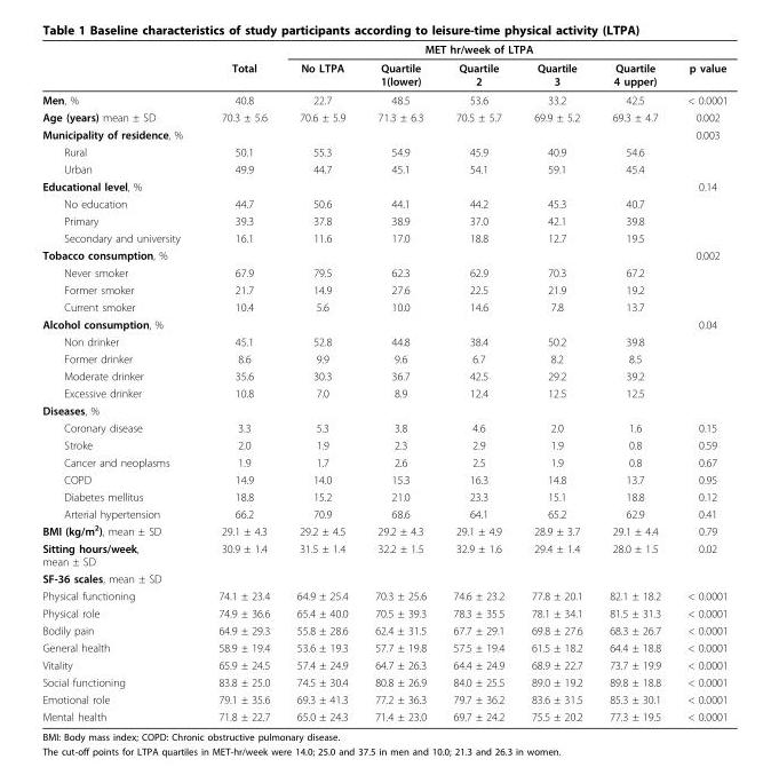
<table><thead><tr><td rowspan="2"></td><td rowspan="2">Total</td><td colspan="5">MET hr/week of LTPA</td><td rowspan="2">p value</td></tr><tr><td>No LTPA</td><td>Quartile 1(lower)</td><td>Quartile 2</td><td>Quartile 3</td><td>Quartile 4 upper)</td></tr></thead><tbody><tr><td>Men, %</td><td>40.8</td><td>22.7</td><td>48.5</td><td>53.6</td><td>33.2</td><td>42.5</td><td>&lt; 0.0001</td></tr><tr><td>Age (years) mean ± SD</td><td>70.3 ± 5.6</td><td>70.6 ± 5.9</td><td>71.3 ± 6.3</td><td>70.5 ± 5.7</td><td>69.9 ± 5.2</td><td>69.3 ± 4.7</td><td>0.002</td></tr><tr><td>Municipality of residence, %</td><td></td><td></td><td></td><td></td><td></td><td></td><td>0.003</td></tr><tr><td>Rural</td><td>50.1</td><td>55.3</td><td>54.9</td><td>45.9</td><td>40.9</td><td>54.6</td><td></td></tr><tr><td>Urban</td><td>49.9</td><td>44.7</td><td>45.1</td><td>54.1</td><td>59.1</td><td>45.4</td><td></td></tr><tr><td>Educational level, %</td><td></td><td></td><td></td><td></td><td></td><td></td><td>0.14</td></tr><tr><td>No education</td><td>44.7</td><td>50.6</td><td>44.1</td><td>44.2</td><td>45.3</td><td>40.7</td><td></td></tr><tr><td>Primary</td><td>39.3</td><td>37.8</td><td>38.9</td><td>37.0</td><td>42.1</td><td>39.8</td><td></td></tr><tr><td>Secondary and university</td><td>16.1</td><td>11.6</td><td>17.0</td><td>18.8</td><td>12.7</td><td>19.5</td><td></td></tr><tr><td>Tobacco consumption, %</td><td></td><td></td><td></td><td></td><td></td><td></td><td>0.002</td></tr><tr><td>Never smoker</td><td>67.9</td><td>79.5</td><td>62.3</td><td>62.9</td><td>70.3</td><td>67.2</td><td></td></tr><tr><td>Former smoker</td><td>21.7</td><td>14.9</td><td>27.6</td><td>22.5</td><td>21.9</td><td>19.2</td><td></td></tr><tr><td>Current smoker</td><td>10.4</td><td>5.6</td><td>10.0</td><td>14.6</td><td>7.8</td><td>13.7</td><td></td></tr><tr><td>Alcohol consumption, %</td><td></td><td></td><td></td><td></td><td></td><td></td><td>0.04</td></tr><tr><td>Non drinker</td><td>45.1</td><td>52.8</td><td>44.8</td><td>38.4</td><td>50.2</td><td>39.8</td><td></td></tr><tr><td>Former drinker</td><td>8.6</td><td>9.9</td><td>9.6</td><td>6.7</td><td>8.2</td><td>8.5</td><td></td></tr><tr><td>Moderate drinker</td><td>35.6</td><td>30.3</td><td>36.7</td><td>42.5</td><td>29.2</td><td>39.2</td><td></td></tr><tr><td>Excessive drinker</td><td>10.8</td><td>7.0</td><td>8.9</td><td>12.4</td><td>12.5</td><td>12.5</td><td></td></tr><tr><td colspan="8">Diseases, %</td></tr><tr><td>Coronary disease</td><td>3.3</td><td>5.3</td><td>3.8</td><td>4.6</td><td>2.0</td><td>1.6</td><td>0.15</td></tr><tr><td>Stroke</td><td>2.0</td><td>1.9</td><td>2.3</td><td>2.9</td><td>1.9</td><td>0.8</td><td>0.59</td></tr><tr><td>Cancer and neoplasms</td><td>1.9</td><td>1.7</td><td>2.6</td><td>2.5</td><td>1.9</td><td>0.8</td><td>0.67</td></tr><tr><td>COPD</td><td>14.9</td><td>14.0</td><td>15.3</td><td>16.3</td><td>14.8</td><td>13.7</td><td>0.95</td></tr><tr><td>Diabetes mellitus</td><td>18.8</td><td>15.2</td><td>21.0</td><td>23.3</td><td>15.1</td><td>18.8</td><td>0.12</td></tr><tr><td>Arterial hypertension</td><td>66.2</td><td>70.9</td><td>68.6</td><td>64.1</td><td>65.2</td><td>62.9</td><td>0.41</td></tr><tr><td>BMI (kg/m<sup>2</sup>), mean ± SD</td><td>29.1 ± 4.3</td><td>29.2 ± 4.5</td><td>29.2 ± 4.3</td><td>29.1 ± 4.9</td><td>28.9 ± 3.7</td><td>29.1 ± 4.4</td><td>0.79</td></tr><tr><td>Sitting hours/week, mean ± SD</td><td>30.9 ± 1.4</td><td>31.5 ± 1.4</td><td>32.2 ± 1.5</td><td>32.9 ± 1.6</td><td>29.4 ± 1.4</td><td>28.0 ± 1.5</td><td>0.02</td></tr><tr><td colspan="8">SF-36 scales, mean ± SD</td></tr><tr><td>Physical functioning</td><td>74.1 ± 23.4</td><td>64.9 ± 25.4</td><td>70.3 ± 25.6</td><td>74.6 ± 23.2</td><td>77.8 ± 20.1</td><td>82.1 ± 18.2</td><td>&lt; 0.0001</td></tr><tr><td>Physical role</td><td>74.9 ± 36.6</td><td>65.4 ± 40.0</td><td>70.5 ± 39.3</td><td>78.3 ± 35.5</td><td>78.1 ± 34.1</td><td>81.5 ± 31.3</td><td>&lt; 0.0001</td></tr><tr><td>Bodily pain</td><td>64.9 ± 29.3</td><td>55.8 ± 28.6</td><td>62.4 ± 31.5</td><td>67.7 ± 29.1</td><td>69.8 ± 27.6</td><td>68.3 ± 26.7</td><td>&lt; 0.0001</td></tr><tr><td>General health</td><td>58.9 ± 19.4</td><td>53.6 ± 19.3</td><td>57.7 ± 19.8</td><td>57.5 ± 19.4</td><td>61.5 ± 18.2</td><td>64.4 ± 18.8</td><td>&lt; 0.0001</td></tr><tr><td>Vitality</td><td>65.9 ± 24.5</td><td>57.4 ± 24.9</td><td>64.7 ± 26.3</td><td>64.4 ± 24.9</td><td>68.9 ± 22.7</td><td>73.7 ± 19.9</td><td>&lt; 0.0001</td></tr><tr><td>Social functioning</td><td>83.8 ± 25.0</td><td>74.5 ± 30.4</td><td>80.8 ± 26.9</td><td>84.0 ± 25.5</td><td>89.0 ± 19.2</td><td>89.8 ± 18.8</td><td>&lt; 0.0001</td></tr><tr><td>Emotional role</td><td>79.1 ± 35.6</td><td>69.3 ± 41.3</td><td>77.2 ± 36.3</td><td>79.7 ± 36.2</td><td>83.6 ± 31.5</td><td>85.3 ± 30.1</td><td>&lt; 0.0001</td></tr><tr><td>Mental health</td><td>71.8 ± 22.7</td><td>65.0 ± 24.3</td><td>71.4 ± 23.0</td><td>69.7 ± 24.2</td><td>75.5 ± 20.2</td><td>77.3 ± 19.5</td><td>&lt; 0.0001</td></tr></tbody></table>